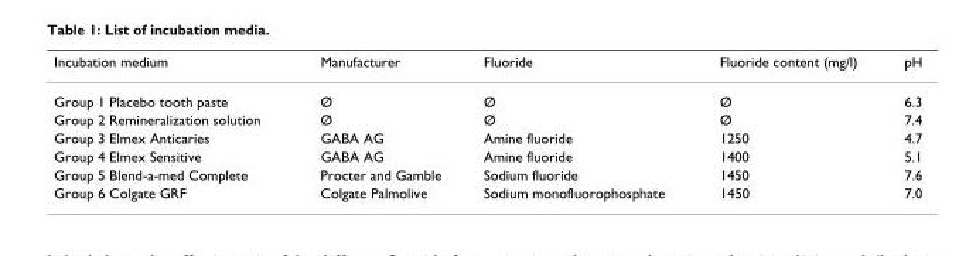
<table><thead><tr><td>Incubation medium</td><td>Manufacturer</td><td>Fluoride</td><td>Fluoride content (mg/l)</td><td>pH</td></tr></thead><tbody><tr><td>Group 1 Placebo tooth paste</td><td>Ø</td><td>Ø</td><td>Ø</td><td>6.3</td></tr><tr><td>Group 2 Remineralization solution</td><td>Ø</td><td>Ø</td><td>Ø</td><td>7.4</td></tr><tr><td>Group 3 Elmex Anticaries</td><td>GABA AG</td><td>Amine fluoride</td><td>1250</td><td>4.7</td></tr><tr><td>Group 4 Elmex Sensitive</td><td>GABA AG</td><td>Amine fluoride</td><td>1400</td><td>5.1</td></tr><tr><td>Group 5 Blend-a-med Complete</td><td>Procter and Gamble</td><td>Sodium fluoride</td><td>1450</td><td>7.6</td></tr><tr><td>Group 6 Colgate GRF</td><td>Colgate Palmolive</td><td>Sodium monofluorophosphate</td><td>1450</td><td>7.0</td></tr></tbody></table>